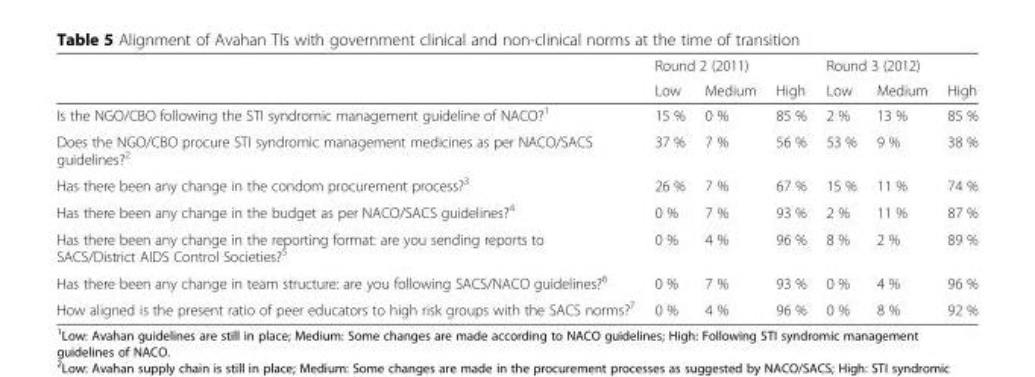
<table><thead><tr><td rowspan="2"></td><td colspan="3">Round 2 (2011)</td><td colspan="3">Round 3 (2012)</td></tr><tr><td>Low</td><td>Medium</td><td>High</td><td>Low</td><td>Medium</td><td>High</td></tr></thead><tbody><tr><td>Is the NGO/CBO following the STI syndromic management guideline of NACO?<sup>1</sup></td><td>15 %</td><td>0 %</td><td>85 %</td><td>2 %</td><td>13 %</td><td>85 %</td></tr><tr><td>Does the NGO/CBO procure STI syndromic management medicines as per NACO/SACS guidelines?<sup>2</sup></td><td>37 %</td><td>7 %</td><td>56 %</td><td>53 %</td><td>9 %</td><td>38 %</td></tr><tr><td>Has there been any change in the condom procurement process?<sup>3</sup></td><td>26 %</td><td>7 %</td><td>67 %</td><td>15 %</td><td>11 %</td><td>74 %</td></tr><tr><td>Has there been any change in the budget as per NACO/SACS guidelines?<sup>4</sup></td><td>0 %</td><td>7 %</td><td>93 %</td><td>2 %</td><td>11 %</td><td>87 %</td></tr><tr><td>Has there been any change in the reporting format: are you sending reports to SACS/District AIDS Control Societies?<sup>5</sup></td><td>0 %</td><td>4 %</td><td>96 %</td><td>8 %</td><td>2 %</td><td>89 %</td></tr><tr><td>Has there been any change in team structure: are you following SACS/NACO guidelines?<sup>6</sup></td><td>0 %</td><td>7 %</td><td>93 %</td><td>0 %</td><td>4 %</td><td>96 %</td></tr><tr><td>How aligned is the present ratio of peer educators to high risk groups with the SACS norms?<sup>7</sup></td><td>0 %</td><td>4 %</td><td>96 %</td><td>0 %</td><td>8 %</td><td>92 %</td></tr></tbody></table>